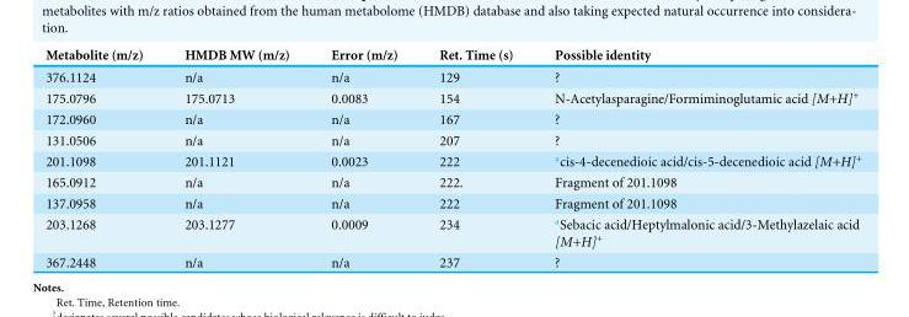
<table><thead><tr><td>Metabolite (m/z)</td><td>HMDB MW (m/z)</td><td>Error (m/z)</td><td>Ret. Time (s)</td><td>Possible identity</td></tr></thead><tbody><tr><td>376.1124</td><td>n/a</td><td>n/a</td><td>129</td><td>?</td></tr><tr><td>175.0796</td><td>175.0713</td><td>0.0083</td><td>154</td><td>N-Acetylasparagine/Formiminoglutamic acid [M+H]<sup>+</sup></td></tr><tr><td>172.0960</td><td>n/a</td><td>n/a</td><td>167</td><td>?</td></tr><tr><td>131.0506</td><td>n/a</td><td>n/a</td><td>207</td><td>?</td></tr><tr><td>201.1098</td><td>201.1121</td><td>0.0023</td><td>222</td><td><sup>a</sup>cis-4-decenedioic acid/cis-5-decenedioic acid [M+H]<sup>+</sup></td></tr><tr><td>165.0912</td><td>n/a</td><td>n/a</td><td>222.</td><td>Fragment of 201.1098</td></tr><tr><td>137.0958</td><td>n/a</td><td>n/a</td><td>222</td><td>Fragment of 201.1098</td></tr><tr><td>203.1268</td><td>203.1277</td><td>0.0009</td><td>234</td><td><sup>a</sup>Sebacic acid/Heptylmalonic acid/3-Methylazelaic acid [M+H]<sup>+</sup></td></tr><tr><td>367.2448</td><td>n/a</td><td>n/a</td><td>237</td><td>?</td></tr></tbody></table>